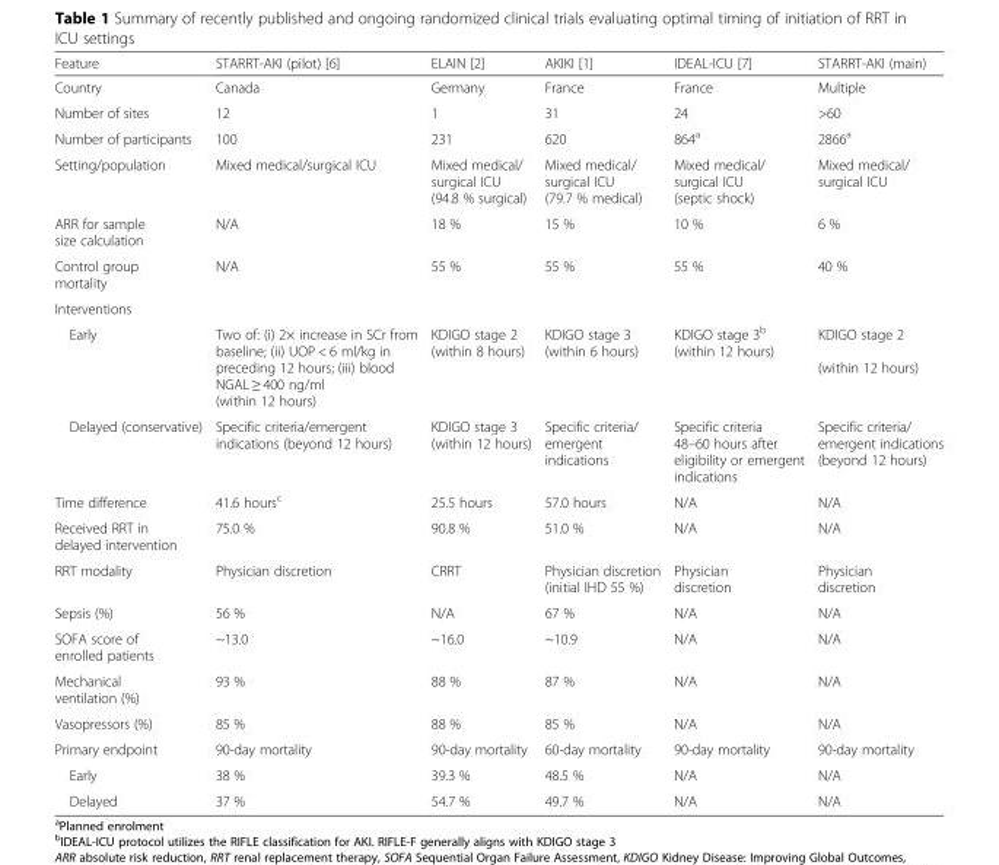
<table><thead><tr><td>Feature</td><td>STARRT-AKI (pilot) [6]</td><td>ELAIN [2]</td><td>AKIKI [1]</td><td>IDEAL-ICU [7]</td><td>STARRT-AKI (main)</td></tr></thead><tbody><tr><td>Country</td><td>Canada</td><td>Germany</td><td>France</td><td>France</td><td>Multiple</td></tr><tr><td>Number of sites</td><td>12</td><td>1</td><td>31</td><td>24</td><td>&gt;60</td></tr><tr><td>Number of participants</td><td>100</td><td>231</td><td>620</td><td>864<sup>a</sup></td><td>2866<sup>a</sup></td></tr><tr><td>Setting/population</td><td>Mixed medical/surgical ICU</td><td>Mixed medical/ surgical ICU (94.8 % surgical)</td><td>Mixed medical/ surgical ICU (79.7 % medical)</td><td>Mixed medical/ surgical ICU (septic shock)</td><td>Mixed medical/ surgical ICU</td></tr><tr><td>ARR for sample size calculation</td><td>N/A</td><td>18 %</td><td>15 %</td><td>10 %</td><td>6 %</td></tr><tr><td>Control group mortality</td><td>N/A</td><td>55 %</td><td>55 %</td><td>55 %</td><td>40 %</td></tr><tr><td colspan="6">Interventions</td></tr><tr><td>Early</td><td>Two of: (i) 2× increase in SCr from baseline; (ii) UOP &lt; 6 ml/kg in preceding 12 hours; (iii) blood NGAL ≥ 400 ng/ml (within 12 hours)</td><td>KDIGO stage 2 (within 8 hours)</td><td>KDIGO stage 3 (within 6 hours)</td><td>KDIGO stage 3<sup>b</sup> (within 12 hours)</td><td>KDIGO stage 2 (within 12 hours)</td></tr><tr><td>Delayed (conservative)</td><td>Specific criteria/emergent indications (beyond 12 hours)</td><td>KDIGO stage 3 (within 12 hours)</td><td>Specific criteria/ emergent indications</td><td>Specific criteria 48–60 hours after eligibility or emergent indications</td><td>Specific criteria/ emergent indications (beyond 12 hours)</td></tr><tr><td>Time difference</td><td>41.6 hours<sup>c</sup></td><td>25.5 hours</td><td>57.0 hours</td><td>N/A</td><td>N/A</td></tr><tr><td>Received RRT in delayed intervention</td><td>75.0 %</td><td>90.8 %</td><td>51.0 %</td><td>N/A</td><td>N/A</td></tr><tr><td>RRT modality</td><td>Physician discretion</td><td>CRRT</td><td>Physician discretion (initial IHD 55 %)</td><td>Physician discretion</td><td>Physician discretion</td></tr><tr><td>Sepsis (%)</td><td>56 %</td><td>N/A</td><td>67 %</td><td>N/A</td><td>N/A</td></tr><tr><td>SOFA score of enrolled patients</td><td>~13.0</td><td>~16.0</td><td>~10.9</td><td>N/A</td><td>N/A</td></tr><tr><td>Mechanical ventilation (%)</td><td>93 %</td><td>88 %</td><td>87 %</td><td>N/A</td><td>N/A</td></tr><tr><td>Vasopressors (%)</td><td>85 %</td><td>88 %</td><td>85 %</td><td>N/A</td><td>N/A</td></tr><tr><td>Primary endpoint</td><td>90-day mortality</td><td>90-day mortality</td><td>60-day mortality</td><td>90-day mortality</td><td>90-day mortality</td></tr><tr><td>Early</td><td>38 %</td><td>39.3 %</td><td>48.5 %</td><td>N/A</td><td>N/A</td></tr><tr><td>Delayed</td><td>37 %</td><td>54.7 %</td><td>49.7 %</td><td>N/A</td><td>N/A</td></tr></tbody></table>